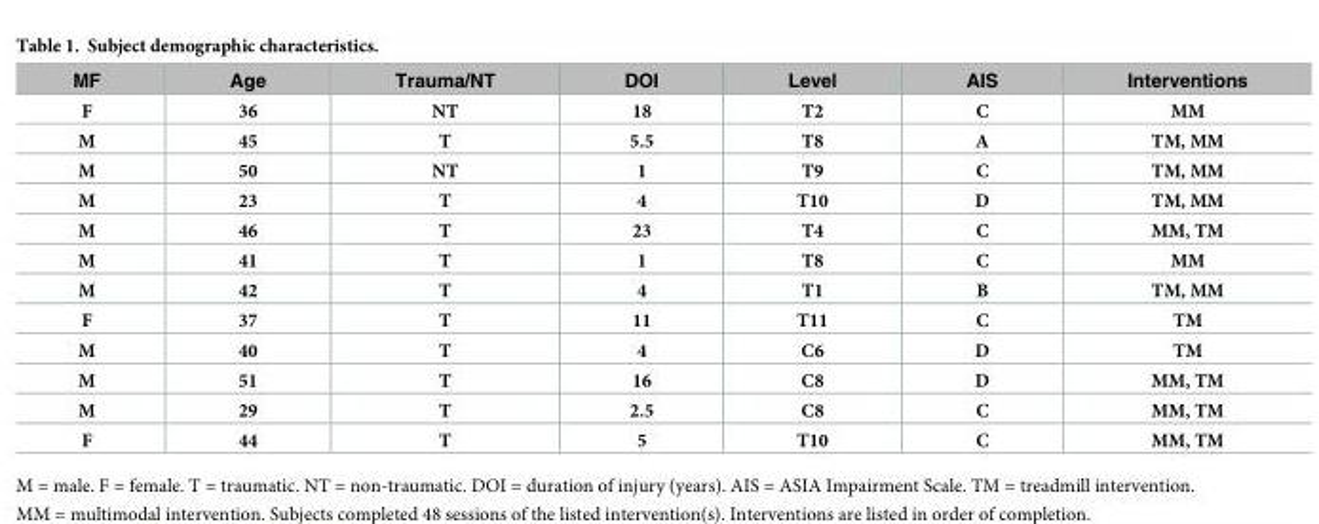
<table><thead><tr><td>MF</td><td>Age</td><td>Trauma/NT</td><td>DOI</td><td>Level</td><td>AIS</td><td>Interventions</td></tr></thead><tbody><tr><td>F</td><td>36</td><td>NT</td><td>18</td><td>T2</td><td>C</td><td>MM</td></tr><tr><td>M</td><td>45</td><td>T</td><td>5.5</td><td>T8</td><td>A</td><td>TM, MM</td></tr><tr><td>M</td><td>50</td><td>NT</td><td>1</td><td>T9</td><td>C</td><td>TM, MM</td></tr><tr><td>M</td><td>23</td><td>T</td><td>4</td><td>T10</td><td>D</td><td>TM, MM</td></tr><tr><td>M</td><td>46</td><td>T</td><td>23</td><td>T4</td><td>C</td><td>MM, TM</td></tr><tr><td>M</td><td>41</td><td>T</td><td>1</td><td>T8</td><td>C</td><td>MM</td></tr><tr><td>M</td><td>42</td><td>T</td><td>4</td><td>T1</td><td>B</td><td>TM, MM</td></tr><tr><td>F</td><td>37</td><td>T</td><td>11</td><td>T11</td><td>C</td><td>TM</td></tr><tr><td>M</td><td>40</td><td>T</td><td>4</td><td>C6</td><td>D</td><td>TM</td></tr><tr><td>M</td><td>51</td><td>T</td><td>16</td><td>C8</td><td>D</td><td>MM, TM</td></tr><tr><td>M</td><td>29</td><td>T</td><td>2.5</td><td>C8</td><td>C</td><td>MM, TM</td></tr><tr><td>F</td><td>44</td><td>T</td><td>5</td><td>T10</td><td>C</td><td>MM, TM</td></tr></tbody></table>